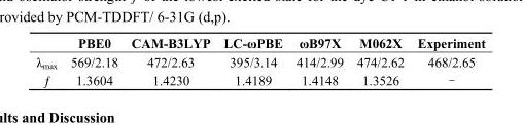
<table><thead><tr><td></td><td>PBE0</td><td>CAM-B3LYP</td><td>LC-ωPBE</td><td>ωB97X</td><td>M062X</td><td>Experiment</td></tr></thead><tbody><tr><td>λ<sub>max</sub></td><td>569/2.18</td><td>472/2.63</td><td>395/3.14</td><td>414/2.99</td><td>474/2.62</td><td>468/2.65</td></tr><tr><td>ƒ</td><td>1.3604</td><td>1.4230</td><td>1.4189</td><td>1.4148</td><td>1.3526</td><td>–</td></tr></tbody></table>